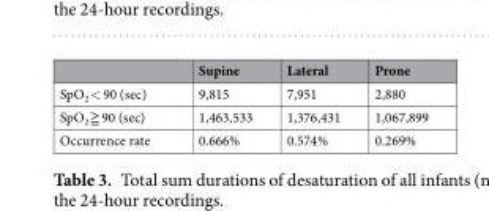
<table><thead><tr><td></td><td>Supine</td><td>Lateral</td><td>Prone</td></tr></thead><tbody><tr><td>SpO<sub>2</sub> &lt; 90 (sec)</td><td>9,815</td><td>7,951</td><td>2,880</td></tr><tr><td>SpO<sub>2</sub> ≧ 90 (sec)</td><td>1,463,533</td><td>1,376,431</td><td>1,067,899</td></tr><tr><td>Occurrence rate</td><td>0.666%</td><td>0.574%</td><td>0.269%</td></tr></tbody></table>